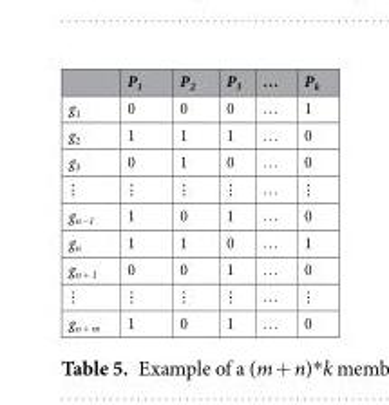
<table><thead><tr><td></td><td>P<sub>1</sub></td><td>P<sub>2</sub></td><td>P<sub>3</sub></td><td>…</td><td>P<sub>k</sub></td></tr></thead><tbody><tr><td>g<sub>1</sub></td><td>0</td><td>0</td><td>0</td><td>…</td><td>1</td></tr><tr><td>g<sub>2</sub></td><td>1</td><td>1</td><td>1</td><td>…</td><td>0</td></tr><tr><td>g<sub>3</sub></td><td>0</td><td>1</td><td>0</td><td>…</td><td>0</td></tr><tr><td>⋮</td><td>⋮</td><td>⋮</td><td>⋮</td><td>…</td><td>⋮</td></tr><tr><td>g<sub>n−1</sub></td><td>1</td><td>0</td><td>1</td><td>…</td><td>0</td></tr><tr><td>g<sub>n</sub></td><td>1</td><td>1</td><td>0</td><td>…</td><td>1</td></tr><tr><td>g<sub>n + 1</sub></td><td>0</td><td>0</td><td>1</td><td>…</td><td>0</td></tr><tr><td>⋮</td><td>⋮</td><td>⋮</td><td>⋮</td><td>…</td><td>⋮</td></tr><tr><td>g<sub>n + m</sub></td><td>1</td><td>0</td><td>1</td><td>…</td><td>0</td></tr></tbody></table>